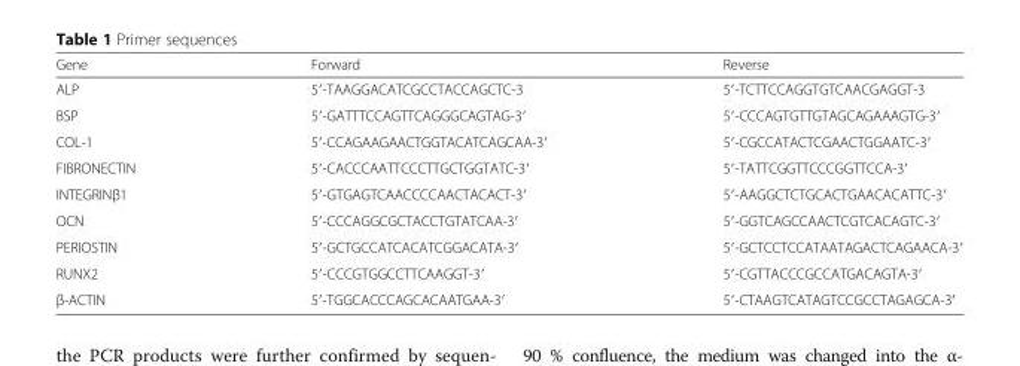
<table><thead><tr><td>Gene</td><td>Forward</td><td>Reverse</td></tr></thead><tbody><tr><td>ALP</td><td>5′-TAAGGACATCGCCTACCAGCTC-3</td><td>5′-TCTTCCAGGTGTCAACGAGGT-3</td></tr><tr><td>BSP</td><td>5′-GATTTCCAGTTCAGGGCAGTAG-3′</td><td>5′-CCCAGTGTTGTAGCAGAAAGTG-3′</td></tr><tr><td>COL-1</td><td>5′-CCAGAAGAACTGGTACATCAGCAA-3′</td><td>5′-CGCCATACTCGAACTGGAATC-3′</td></tr><tr><td>FIBRONECTIN</td><td>5′-CACCCAATTCCCTTGCTGGTATC-3′</td><td>5′-TATTCGGTTCCCGGTTCCA-3′</td></tr><tr><td>INTEGRINβ1</td><td>5′-GTGAGTCAACCCCAACTACACT-3′</td><td>5′-AAGGCTCTGCACTGAACACATTC-3′</td></tr><tr><td>OCN</td><td>5′-CCCAGGCGCTACCTGTATCAA-3′</td><td>5′-GGTCAGCCAACTCGTCACAGTC-3′</td></tr><tr><td>PERIOSTIN</td><td>5′-GCTGCCATCACATCGGACATA-3′</td><td>5′-GCTCCTCCATAATAGACTCAGAACA-3′</td></tr><tr><td>RUNX2</td><td>5′-CCCGTGGCCTTCAAGGT-3′</td><td>5′-CGTTACCCGCCATGACAGTA-3′</td></tr><tr><td>β-ACTIN</td><td>5′-TGGCACCCAGCACAATGAA-3′</td><td>5′-CTAAGTCATAGTCCGCCTAGAGCA-3′</td></tr></tbody></table>